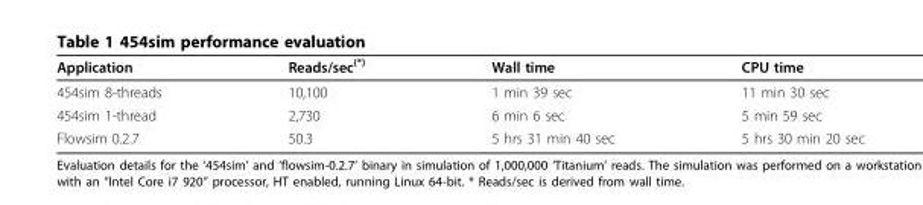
<table><thead><tr><td>Application</td><td>Reads/sec<sup>(*)</sup></td><td>Wall time</td><td>CPU time</td></tr></thead><tbody><tr><td>454sim 8-threads</td><td>10,100</td><td>1 min 39 sec</td><td>11 min 30 sec</td></tr><tr><td>454sim 1-thread</td><td>2,730</td><td>6 min 6 sec</td><td>5 min 59 sec</td></tr><tr><td>Flowsim 0.2.7</td><td>50.3</td><td>5 hrs 31 min 40 sec</td><td>5 hrs 30 min 20 sec</td></tr></tbody></table>